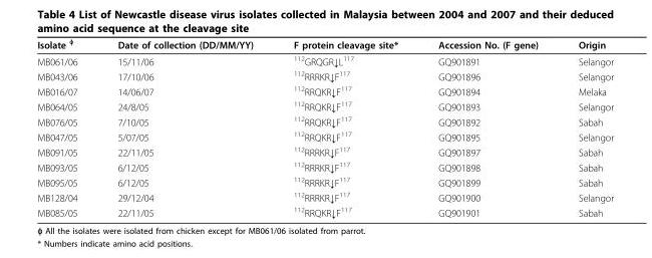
<table><thead><tr><td>Isolate <sup>ɸ</sup></td><td>Date of collection (DD/MM/YY)</td><td>F protein cleavage site*</td><td>Accession No. (F gene)</td><td>Origin</td></tr></thead><tbody><tr><td>MB061/06</td><td>15/11/06</td><td><sup>112</sup>GRQGR↓L<sup>117</sup></td><td>GQ901891</td><td>Selangor</td></tr><tr><td>MB043/06</td><td>17/10/06</td><td><sup>112</sup>RRRKR↓F<sup>117</sup></td><td>GQ901896</td><td>Selangor</td></tr><tr><td>MB016/07</td><td>14/06/07</td><td><sup>112</sup>RRQKR↓F<sup>117</sup></td><td>GQ901894</td><td>Melaka</td></tr><tr><td>MB064/05</td><td>24/8/05</td><td><sup>112</sup>RRQKR↓F<sup>117</sup></td><td>GQ901893</td><td>Selangor</td></tr><tr><td>MB076/05</td><td>7/10/05</td><td><sup>112</sup>RRQKR↓F<sup>117</sup></td><td>GQ901892</td><td>Sabah</td></tr><tr><td>MB047/05</td><td>5/07/05</td><td><sup>112</sup>RRQKR↓F<sup>117</sup></td><td>GQ901895</td><td>Selangor</td></tr><tr><td>MB091/05</td><td>22/11/05</td><td><sup>112</sup>RRRKR↓F<sup>117</sup></td><td>GQ901897</td><td>Sabah</td></tr><tr><td>MB093/05</td><td>6/12/05</td><td><sup>112</sup>RRRKR↓F<sup>117</sup></td><td>GQ901898</td><td>Sabah</td></tr><tr><td>MB095/05</td><td>6/12/05</td><td><sup>112</sup>RRRKR↓F<sup>117</sup></td><td>GQ901899</td><td>Sabah</td></tr><tr><td>MB128/04</td><td>29/12/04</td><td><sup>112</sup>RRRKR↓F<sup>117</sup></td><td>GQ901900</td><td>Selangor</td></tr><tr><td>MB085/05</td><td>22/11/05</td><td><sup>112</sup>RRQKR↓F<sup>117</sup></td><td>GQ901901</td><td>Sabah</td></tr></tbody></table>